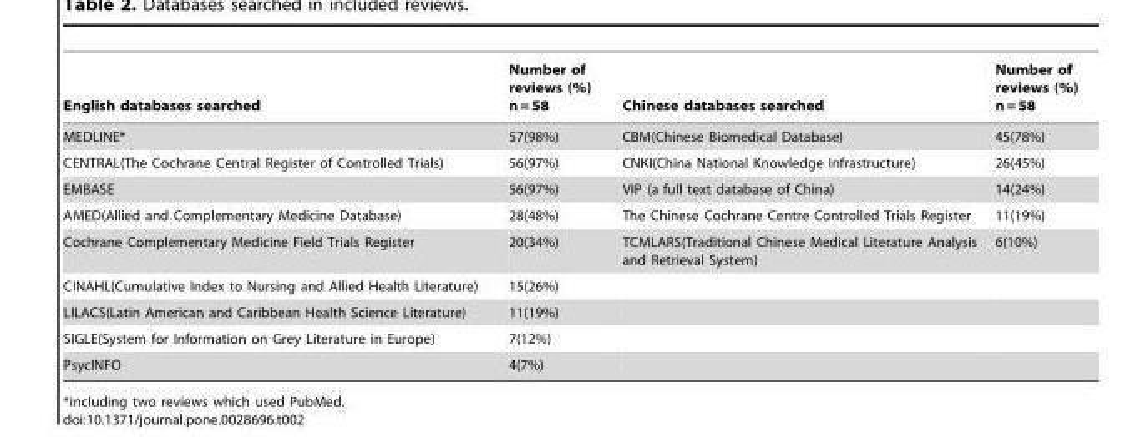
<table><thead><tr><td>English databases searched</td><td>Number of reviews (%) n = 58</td><td>Chinese databases searched</td><td>Number of reviews (%) n = 58</td></tr></thead><tbody><tr><td>MEDLINE*</td><td>57(98%)</td><td>CBM(Chinese Biomedical Database)</td><td>45(78%)</td></tr><tr><td>CENTRAL(The Cochrane Central Register of Controlled Trials)</td><td>56(97%)</td><td>CNKI(China National Knowledge Infrastructure)</td><td>26(45%)</td></tr><tr><td>EMBASE</td><td>56(97%)</td><td>VIP (a full text database of China)</td><td>14(24%)</td></tr><tr><td>AMED(Allied and Complementary Medicine Database)</td><td>28(48%)</td><td>The Chinese Cochrane Centre Controlled Trials Register</td><td>11(19%)</td></tr><tr><td>Cochrane Complementary Medicine Field Trials Register</td><td>20(34%)</td><td>TCMLARS(Traditional Chinese Medical Literature Analysis and Retrieval System)</td><td>6(10%)</td></tr><tr><td>CINAHL(Cumulative Index to Nursing and Allied Health Literature)</td><td>15(26%)</td><td></td><td></td></tr><tr><td>LILACS(Latin American and Caribbean Health Science Literature)</td><td>11(19%)</td><td></td><td></td></tr><tr><td>SIGLE(System for Information on Grey Literature in Europe)</td><td>7(12%)</td><td></td><td></td></tr><tr><td>PsycINFO</td><td>4(7%)</td><td></td><td></td></tr></tbody></table>